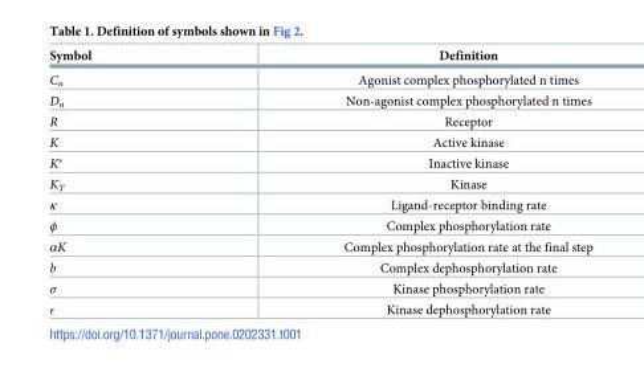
<table><thead><tr><td>Symbol</td><td>Definition</td></tr></thead><tbody><tr><td>C<sub>n</sub></td><td>Agonist complex phosphorylated n times</td></tr><tr><td>D<sub>n</sub></td><td>Non-agonist complex phosphorylated n times</td></tr><tr><td>R</td><td>Receptor</td></tr><tr><td>K</td><td>Active kinase</td></tr><tr><td>K*</td><td>Inactive kinase</td></tr><tr><td>K<sub>T</sub></td><td>Kinase</td></tr><tr><td>κ</td><td>Ligand-receptor binding rate</td></tr><tr><td>ϕ</td><td>Complex phosphorylation rate</td></tr><tr><td>αK</td><td>Complex phosphorylation rate at the final step</td></tr><tr><td>b</td><td>Complex dephosphorylation rate</td></tr><tr><td>σ</td><td>Kinase phosphorylation rate</td></tr><tr><td>ϵ</td><td>Kinase dephosphorylation rate</td></tr></tbody></table>